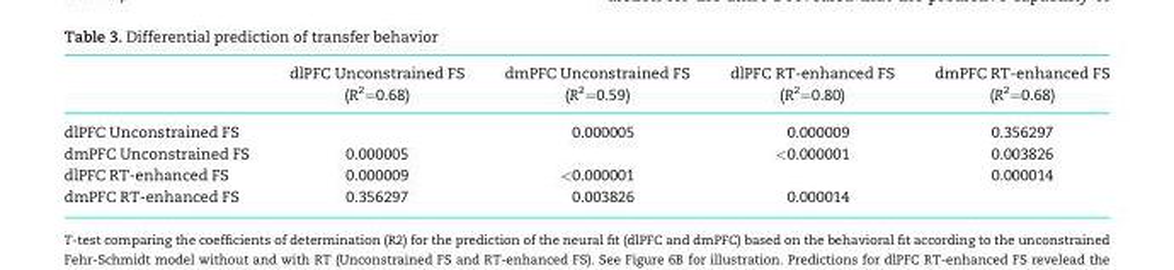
<table><thead><tr><td rowspan="2"></td><td rowspan="2">dlPFC Unconstrained FS (R2=0.68)</td><td rowspan="2">dmPFC Unconstrained FS (R2=0.59)</td><td rowspan="2">dlPFC RT-enhanced FS (R2=0.80)</td><td rowspan="2">dmPFC RT-enhanced FS (R2=0.68)</td></tr><tr></tr></thead><tbody><tr><td>dlPFC Unconstrained FS</td><td></td><td>0.000005</td><td>0.000009</td><td>0.356297</td></tr><tr><td>dmPFC Unconstrained FS</td><td>0.000005</td><td></td><td>&lt;0.000001</td><td>0.003826</td></tr><tr><td>dlPFC RT-enhanced FS</td><td>0.000009</td><td>&lt;0.000001</td><td></td><td>0.000014</td></tr><tr><td>dmPFC RT-enhanced FS</td><td>0.356297</td><td>0.003826</td><td>0.000014</td><td></td></tr></tbody></table>